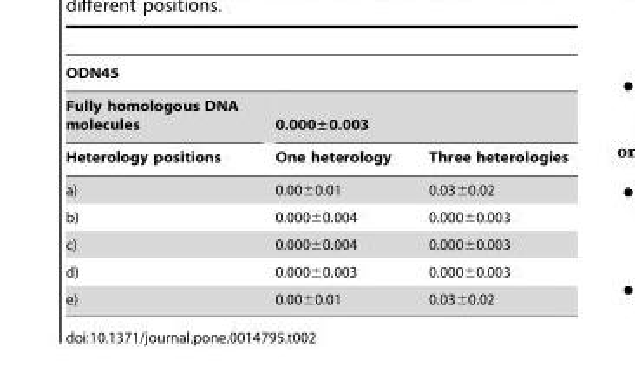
<table><thead><tr><td colspan="3">ODN45</td></tr><tr><td rowspan="2">Fully homologous DNA molecules Heterology positions</td><td colspan="2">0.000±0.003</td></tr><tr><td>One heterology</td><td>Three heterologies</td></tr></thead><tbody><tr><td>a)</td><td>0.00±0.01</td><td>0.03±0.02</td></tr><tr><td>b)</td><td>0.000±0.004</td><td>0.000±0.003</td></tr><tr><td>c)</td><td>0.000±0.004</td><td>0.000±0.003</td></tr><tr><td>d)</td><td>0.000±0.003</td><td>0.000±0.003</td></tr><tr><td>e)</td><td>0.00±0.01</td><td>0.03±0.02</td></tr></tbody></table>